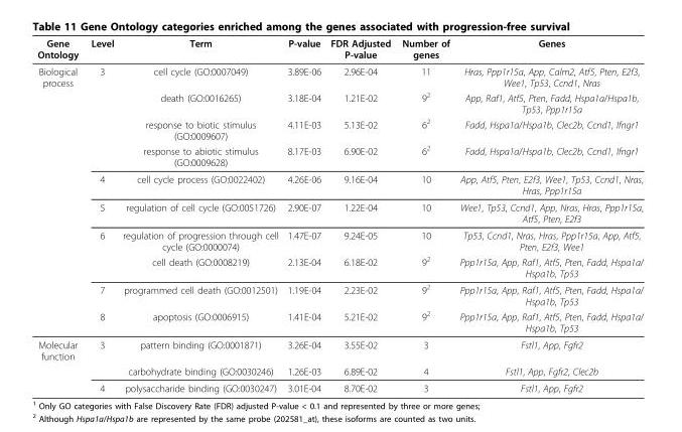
<table><thead><tr><td>Gene Ontology</td><td>Level</td><td>Term</td><td>P-value</td><td>FDR Adjusted P-value</td><td>Number of genes</td><td>Genes</td></tr></thead><tbody><tr><td rowspan="10">Biological process</td><td>3</td><td>cell cycle (GO:0007049)</td><td>3.89E-06</td><td>2.96E-04</td><td>11</td><td>Hras, Ppp1r15a, App, Calm2, Atf5, Pten, E2f3, Wee1, Tp53, Ccnd1, Nras</td></tr><tr><td></td><td>death (GO:0016265)</td><td>3.18E-04</td><td>1.21E-02</td><td>9<sup>2</sup></td><td>App, Raf1, Atf5, Pten, Fadd, Hspa1a/Hspa1b, Tp53, Ppp1r15a</td></tr><tr><td></td><td>response to biotic stimulus (GO:0009607)</td><td>4.11E-03</td><td>5.13E-02</td><td>6<sup>2</sup></td><td>Fadd, Hspa1a/Hspa1b, Clec2b, Ccnd1, Ifngr1</td></tr><tr><td></td><td>response to abiotic stimulus (GO:0009628)</td><td>8.17E-03</td><td>6.90E-02</td><td>6<sup>2</sup></td><td>Fadd, Hspa1a/Hspa1b, Clec2b, Ccnd1, Ifngr1</td></tr><tr><td>4</td><td>cell cycle process (GO:0022402)</td><td>4.26E-06</td><td>9.16E-04</td><td>10</td><td>App, Atf5, Pten, E2f3, Wee1, Tp53, Ccnd1, Nras, Hras, Ppp1r15a</td></tr><tr><td>5</td><td>regulation of cell cycle (GO:0051726)</td><td>2.90E-07</td><td>1.22E-04</td><td>10</td><td>Wee1, Tp53, Ccnd1, App, Nras, Hras, Ppp1r15a, Atf5, Pten, E2f3</td></tr><tr><td>6</td><td>regulation of progression through cell cycle (GO:0000074)</td><td>1.47E-07</td><td>9.24E-05</td><td>10</td><td>Tp53, Ccnd1, Nras, Hras, Ppp1r15a, App, Atf5, Pten, E2f3, Wee1</td></tr><tr><td></td><td>cell death (GO:0008219)</td><td>2.13E-04</td><td>6.18E-02</td><td>9<sup>2</sup></td><td>Ppp1r15a, App, Raf1, Atf5, Pten, Fadd, Hspa1a/ Hspa1b, Tp53</td></tr><tr><td>7</td><td>programmed cell death (GO:0012501)</td><td>1.19E-04</td><td>2.23E-02</td><td>9<sup>2</sup></td><td>Ppp1r15a, App, Raf1, Atf5, Pten, Fadd, Hspa1a/ Hspa1b, Tp53</td></tr><tr><td>8</td><td>apoptosis (GO:0006915)</td><td>1.41E-04</td><td>5.21E-02</td><td>9<sup>2</sup></td><td>Ppp1r15a, App, Raf1, Atf5, Pten, Fadd, Hspa1a/ Hspa1b, Tp53</td></tr><tr><td rowspan="3">Molecular function</td><td>3</td><td>pattern binding (GO:0001871)</td><td>3.26E-04</td><td>3.55E-02</td><td>3</td><td>Fstl1, App, Fgfr2</td></tr><tr><td></td><td>carbohydrate binding (GO:0030246)</td><td>1.26E-03</td><td>6.89E-02</td><td>4</td><td>Fstl1, App, Fgfr2, Clec2b</td></tr><tr><td>4</td><td>polysaccharide binding (GO:0030247)</td><td>3.01E-04</td><td>8.70E-02</td><td>3</td><td>Fstl1, App, Fgfr2</td></tr></tbody></table>